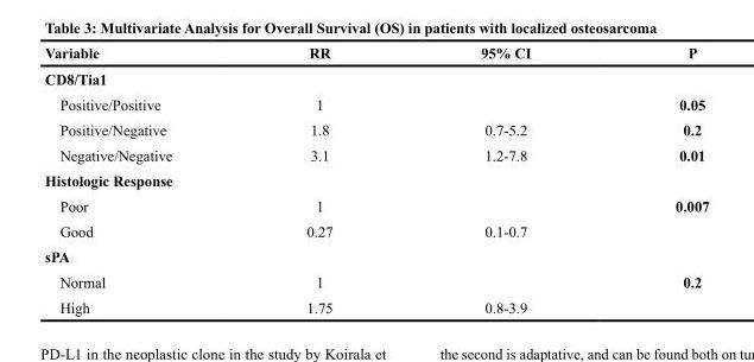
<table><thead><tr><td>Variable</td><td>RR</td><td>95% CI</td><td>P</td></tr></thead><tbody><tr><td colspan="4">CD8/Tia1</td></tr><tr><td>Positive/Positive</td><td>1</td><td></td><td>0.05</td></tr><tr><td>Positive/Negative</td><td>1.8</td><td>0.7-5.2</td><td>0.2</td></tr><tr><td>Negative/Negative</td><td>3.1</td><td>1.2-7.8</td><td>0.01</td></tr><tr><td colspan="4">Histologic Response</td></tr><tr><td>Poor</td><td>1</td><td></td><td>0.007</td></tr><tr><td>Good</td><td>0.27</td><td>0.1-0.7</td><td></td></tr><tr><td colspan="4">sPA</td></tr><tr><td>Normal</td><td>1</td><td></td><td>0.2</td></tr><tr><td>High</td><td>1.75</td><td>0.8-3.9</td><td></td></tr></tbody></table>